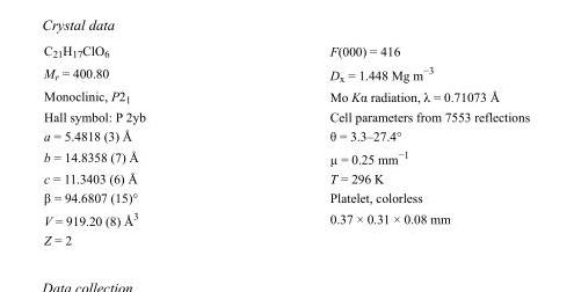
<table><tbody><tr><td>C<sub>21</sub>H<sub>17</sub>ClO<sub>6</sub></td><td>F(000) = 416</td></tr><tr><td>M<sub>r</sub> = 400.80</td><td>D<sub>x</sub> = 1.448 Mg m<sup>−3</sup></td></tr><tr><td>Monoclinic, P2<sub>1</sub></td><td>Mo Kα radiation, λ = 0.71073 Å</td></tr><tr><td>Hall symbol: P 2yb</td><td>Cell parameters from 7553 reflections</td></tr><tr><td>a = 5.4818 (3) Å</td><td>θ = 3.3–27.4°</td></tr><tr><td>b = 14.8358 (7) Å</td><td>µ = 0.25 mm<sup>−1</sup></td></tr><tr><td>c = 11.3403 (6) Å</td><td>T = 296 K</td></tr><tr><td>β = 94.6807 (15)°</td><td>Platelet, colorless</td></tr><tr><td>V = 919.20 (8) Å<sup>3</sup></td><td>0.37 × 0.31 × 0.08 mm</td></tr><tr><td>Z = 2</td><td></td></tr></tbody></table>